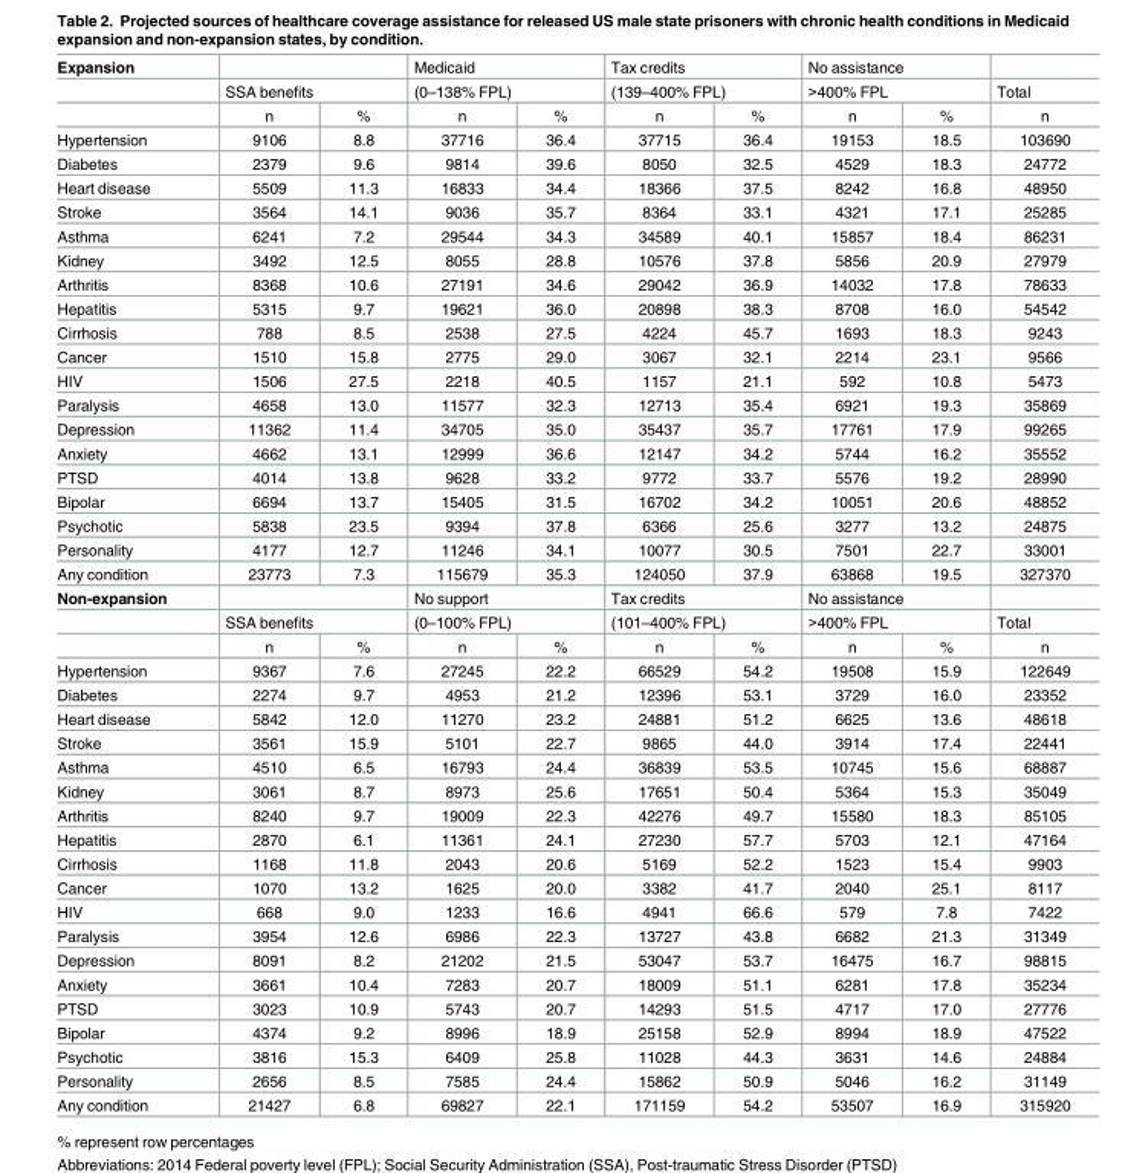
<table><tbody><tr><td rowspan="3">Expansion</td><td colspan="2"></td><td colspan="2">Medicaid</td><td colspan="2">Tax credits</td><td colspan="2">No assistance</td><td></td></tr><tr><td colspan="2">SSA benefits</td><td colspan="2">(0–138% FPL)</td><td colspan="2">(139–400% FPL)</td><td colspan="2">&gt;400% FPL</td><td>Total</td></tr><tr><td>n</td><td>%</td><td>n</td><td>%</td><td>n</td><td>%</td><td>n</td><td>%</td><td>n</td></tr><tr><td>Hypertension</td><td>9106</td><td>8.8</td><td>37716</td><td>36.4</td><td>37715</td><td>36.4</td><td>19153</td><td>18.5</td><td>103690</td></tr><tr><td>Diabetes</td><td>2379</td><td>9.6</td><td>9814</td><td>39.6</td><td>8050</td><td>32.5</td><td>4529</td><td>18.3</td><td>24772</td></tr><tr><td>Heart disease</td><td>5509</td><td>11.3</td><td>16833</td><td>34.4</td><td>18366</td><td>37.5</td><td>8242</td><td>16.8</td><td>48950</td></tr><tr><td>Stroke</td><td>3564</td><td>14.1</td><td>9036</td><td>35.7</td><td>8364</td><td>33.1</td><td>4321</td><td>17.1</td><td>25285</td></tr><tr><td>Asthma</td><td>6241</td><td>7.2</td><td>29544</td><td>34.3</td><td>34589</td><td>40.1</td><td>15857</td><td>18.4</td><td>86231</td></tr><tr><td>Kidney</td><td>3492</td><td>12.5</td><td>8055</td><td>28.8</td><td>10576</td><td>37.8</td><td>5856</td><td>20.9</td><td>27979</td></tr><tr><td>Arthritis</td><td>8368</td><td>10.6</td><td>27191</td><td>34.6</td><td>29042</td><td>36.9</td><td>14032</td><td>17.8</td><td>78633</td></tr><tr><td>Hepatitis</td><td>5315</td><td>9.7</td><td>19621</td><td>36.0</td><td>20898</td><td>38.3</td><td>8708</td><td>16.0</td><td>54542</td></tr><tr><td>Cirrhosis</td><td>788</td><td>8.5</td><td>2538</td><td>27.5</td><td>4224</td><td>45.7</td><td>1693</td><td>18.3</td><td>9243</td></tr><tr><td>Cancer</td><td>1510</td><td>15.8</td><td>2775</td><td>29.0</td><td>3067</td><td>32.1</td><td>2214</td><td>23.1</td><td>9566</td></tr><tr><td>HIV</td><td>1506</td><td>27.5</td><td>2218</td><td>40.5</td><td>1157</td><td>21.1</td><td>592</td><td>10.8</td><td>5473</td></tr><tr><td>Paralysis</td><td>4658</td><td>13.0</td><td>11577</td><td>32.3</td><td>12713</td><td>35.4</td><td>6921</td><td>19.3</td><td>35869</td></tr><tr><td>Depression</td><td>11362</td><td>11.4</td><td>34705</td><td>35.0</td><td>35437</td><td>35.7</td><td>17761</td><td>17.9</td><td>99265</td></tr><tr><td>Anxiety</td><td>4662</td><td>13.1</td><td>12999</td><td>36.6</td><td>12147</td><td>34.2</td><td>5744</td><td>16.2</td><td>35552</td></tr><tr><td>PTSD</td><td>4014</td><td>13.8</td><td>9628</td><td>33.2</td><td>9772</td><td>33.7</td><td>5576</td><td>19.2</td><td>28990</td></tr><tr><td>Bipolar</td><td>6694</td><td>13.7</td><td>15405</td><td>31.5</td><td>16702</td><td>34.2</td><td>10051</td><td>20.6</td><td>48852</td></tr><tr><td>Psychotic</td><td>5838</td><td>23.5</td><td>9394</td><td>37.8</td><td>6366</td><td>25.6</td><td>3277</td><td>13.2</td><td>24875</td></tr><tr><td>Personality</td><td>4177</td><td>12.7</td><td>11246</td><td>34.1</td><td>10077</td><td>30.5</td><td>7501</td><td>22.7</td><td>33001</td></tr><tr><td>Any condition</td><td>23773</td><td>7.3</td><td>115679</td><td>35.3</td><td>124050</td><td>37.9</td><td>63868</td><td>19.5</td><td>327370</td></tr><tr><td rowspan="3">Non-expansion</td><td colspan="2"></td><td colspan="2">No support</td><td colspan="2">Tax credits</td><td colspan="2">No assistance</td><td></td></tr><tr><td colspan="2">SSA benefits</td><td colspan="2">(0–100% FPL)</td><td colspan="2">(101–400% FPL)</td><td colspan="2">&gt;400% FPL</td><td>Total</td></tr><tr><td>n</td><td>%</td><td>n</td><td>%</td><td>n</td><td>%</td><td>n</td><td>%</td><td>n</td></tr><tr><td>Hypertension</td><td>9367</td><td>7.6</td><td>27245</td><td>22.2</td><td>66529</td><td>54.2</td><td>19508</td><td>15.9</td><td>122649</td></tr><tr><td>Diabetes</td><td>2274</td><td>9.7</td><td>4953</td><td>21.2</td><td>12396</td><td>53.1</td><td>3729</td><td>16.0</td><td>23352</td></tr><tr><td>Heart disease</td><td>5842</td><td>12.0</td><td>11270</td><td>23.2</td><td>24881</td><td>51.2</td><td>6625</td><td>13.6</td><td>48618</td></tr><tr><td>Stroke</td><td>3561</td><td>15.9</td><td>5101</td><td>22.7</td><td>9865</td><td>44.0</td><td>3914</td><td>17.4</td><td>22441</td></tr><tr><td>Asthma</td><td>4510</td><td>6.5</td><td>16793</td><td>24.4</td><td>36839</td><td>53.5</td><td>10745</td><td>15.6</td><td>68887</td></tr><tr><td>Kidney</td><td>3061</td><td>8.7</td><td>8973</td><td>25.6</td><td>17651</td><td>50.4</td><td>5364</td><td>15.3</td><td>35049</td></tr><tr><td>Arthritis</td><td>8240</td><td>9.7</td><td>19009</td><td>22.3</td><td>42276</td><td>49.7</td><td>15580</td><td>18.3</td><td>85105</td></tr><tr><td>Hepatitis</td><td>2870</td><td>6.1</td><td>11361</td><td>24.1</td><td>27230</td><td>57.7</td><td>5703</td><td>12.1</td><td>47164</td></tr><tr><td>Cirrhosis</td><td>1168</td><td>11.8</td><td>2043</td><td>20.6</td><td>5169</td><td>52.2</td><td>1523</td><td>15.4</td><td>9903</td></tr><tr><td>Cancer</td><td>1070</td><td>13.2</td><td>1625</td><td>20.0</td><td>3382</td><td>41.7</td><td>2040</td><td>25.1</td><td>8117</td></tr><tr><td>HIV</td><td>668</td><td>9.0</td><td>1233</td><td>16.6</td><td>4941</td><td>66.6</td><td>579</td><td>7.8</td><td>7422</td></tr><tr><td>Paralysis</td><td>3954</td><td>12.6</td><td>6986</td><td>22.3</td><td>13727</td><td>43.8</td><td>6682</td><td>21.3</td><td>31349</td></tr><tr><td>Depression</td><td>8091</td><td>8.2</td><td>21202</td><td>21.5</td><td>53047</td><td>53.7</td><td>16475</td><td>16.7</td><td>98815</td></tr><tr><td>Anxiety</td><td>3661</td><td>10.4</td><td>7283</td><td>20.7</td><td>18009</td><td>51.1</td><td>6281</td><td>17.8</td><td>35234</td></tr><tr><td>PTSD</td><td>3023</td><td>10.9</td><td>5743</td><td>20.7</td><td>14293</td><td>51.5</td><td>4717</td><td>17.0</td><td>27776</td></tr><tr><td>Bipolar</td><td>4374</td><td>9.2</td><td>8996</td><td>18.9</td><td>25158</td><td>52.9</td><td>8994</td><td>18.9</td><td>47522</td></tr><tr><td>Psychotic</td><td>3816</td><td>15.3</td><td>6409</td><td>25.8</td><td>11028</td><td>44.3</td><td>3631</td><td>14.6</td><td>24884</td></tr><tr><td>Personality</td><td>2656</td><td>8.5</td><td>7585</td><td>24.4</td><td>15862</td><td>50.9</td><td>5046</td><td>16.2</td><td>31149</td></tr><tr><td>Any condition</td><td>21427</td><td>6.8</td><td>69827</td><td>22.1</td><td>171159</td><td>54.2</td><td>53507</td><td>16.9</td><td>315920</td></tr></tbody></table>